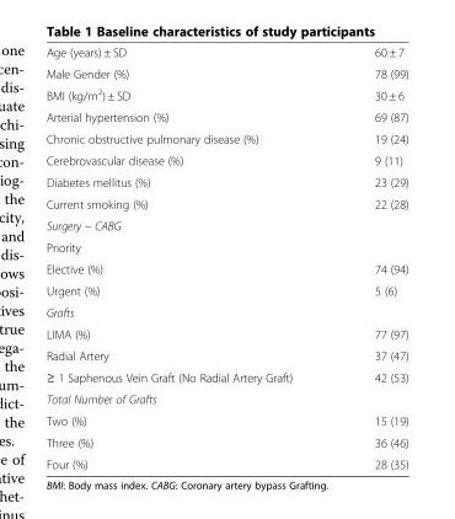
<table><tbody><tr><td>Age (years) ± SD</td><td>60 ± 7</td></tr><tr><td>Male Gender (%)</td><td>78 (99)</td></tr><tr><td>BMI (kg/m<sup>2</sup>) ± SD</td><td>30 ± 6</td></tr><tr><td>Arterial hypertension (%)</td><td>69 (87)</td></tr><tr><td>Chronic obstructive pulmonary disease (%)</td><td>19 (24)</td></tr><tr><td>Cerebrovascular disease (%)</td><td>9 (11)</td></tr><tr><td>Diabetes mellitus (%)</td><td>23 (29)</td></tr><tr><td>Current smoking (%)</td><td>22 (28)</td></tr><tr><td colspan="2">Surgery – CABG</td></tr><tr><td colspan="2">Priority</td></tr><tr><td>Elective (%)</td><td>74 (94)</td></tr><tr><td>Urgent (%)</td><td>5 (6)</td></tr><tr><td colspan="2">Grafts</td></tr><tr><td>LIMA (%)</td><td>77 (97)</td></tr><tr><td>Radial Artery</td><td>37 (47)</td></tr><tr><td>≥ 1 Saphenous Vein Graft (No Radial Artery Graft)</td><td>42 (53)</td></tr><tr><td colspan="2">Total Number of Grafts</td></tr><tr><td>Two (%)</td><td>15 (19)</td></tr><tr><td>Three (%)</td><td>36 (46)</td></tr><tr><td>Four (%)</td><td>28 (35)</td></tr></tbody></table>